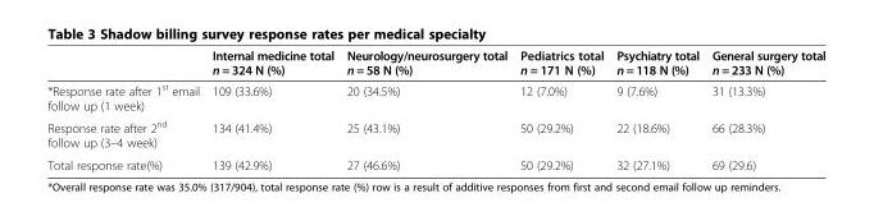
<table><thead><tr><td></td><td>Internal medicine total n = 324 N (%)</td><td>Neurology/neurosurgery total n = 58 N (%)</td><td>Pediatrics total n = 171 N (%)</td><td>Psychiatry total n = 118 N (%)</td><td>General surgery total n = 233 N (%)</td></tr></thead><tbody><tr><td>*Response rate after 1<sup>st</sup> email follow up (1 week)</td><td>109 (33.6%)</td><td>20 (34.5%)</td><td>12 (7.0%)</td><td>9 (7.6%)</td><td>31 (13.3%)</td></tr><tr><td>Response rate after 2<sup>nd</sup> follow up (3–4 week)</td><td>134 (41.4%)</td><td>25 (43.1%)</td><td>50 (29.2%)</td><td>22 (18.6%)</td><td>66 (28.3%)</td></tr><tr><td>Total response rate(%)</td><td>139 (42.9%)</td><td>27 (46.6%)</td><td>50 (29.2%)</td><td>32 (27.1%)</td><td>69 (29.6)</td></tr></tbody></table>